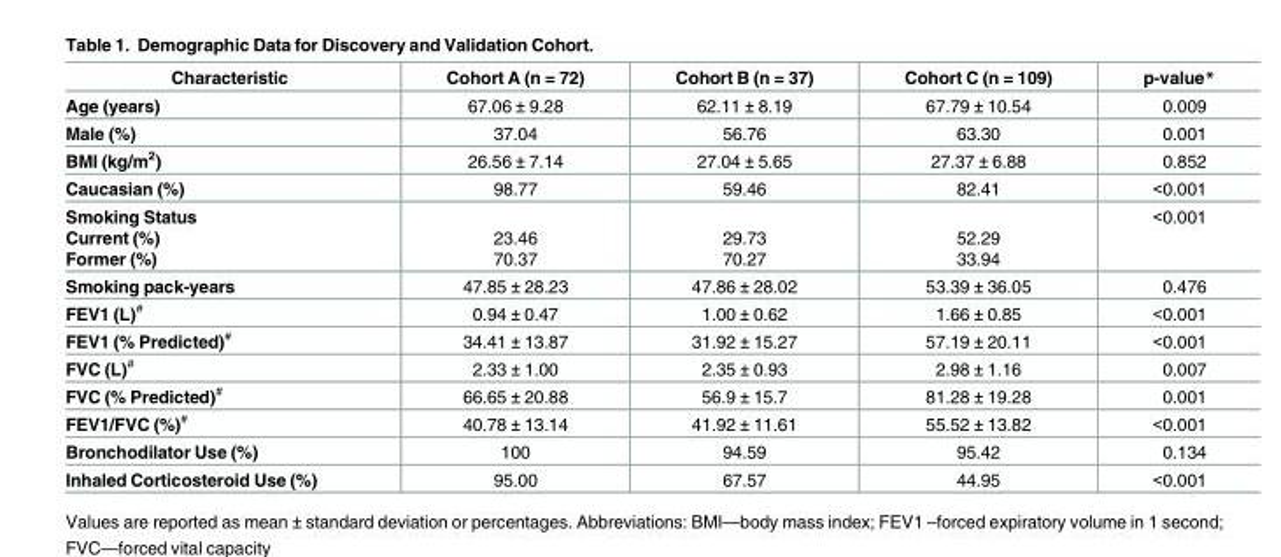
<table><thead><tr><td>Characteristic</td><td>Cohort A (n = 72)</td><td>Cohort B (n = 37)</td><td>Cohort C (n = 109)</td><td>p-value*</td></tr></thead><tbody><tr><td>Age (years)</td><td>67.06 ± 9.28</td><td>62.11 ± 8.19</td><td>67.79 ± 10.54</td><td>0.009</td></tr><tr><td>Male (%)</td><td>37.04</td><td>56.76</td><td>63.30</td><td>0.001</td></tr><tr><td>BMI (kg/m<sup>2</sup>)</td><td>26.56 ± 7.14</td><td>27.04 ± 5.65</td><td>27.37 ± 6.88</td><td>0.852</td></tr><tr><td>Caucasian (%)</td><td>98.77</td><td>59.46</td><td>82.41</td><td>&lt;0.001</td></tr><tr><td>Smoking Status Current (%) Former (%)</td><td>23.46 70.37</td><td>29.73 70.27</td><td>52.29 33.94</td><td>&lt;0.001</td></tr><tr><td>Smoking pack-years</td><td>47.85 ± 28.23</td><td>47.86 ± 28.02</td><td>53.39 ± 36.05</td><td>0.476</td></tr><tr><td>FEV1 (L)<sup>#</sup></td><td>0.94 ± 0.47</td><td>1.00 ± 0.62</td><td>1.66 ± 0.85</td><td>&lt;0.001</td></tr><tr><td>FEV1 (% Predicted)<sup>#</sup></td><td>34.41 ± 13.87</td><td>31.92 ± 15.27</td><td>57.19 ± 20.11</td><td>&lt;0.001</td></tr><tr><td>FVC (L)<sup>#</sup></td><td>2.33 ± 1.00</td><td>2.35 ± 0.93</td><td>2.98 ± 1.16</td><td>0.007</td></tr><tr><td>FVC (% Predicted)<sup>#</sup></td><td>66.65 ± 20.88</td><td>56.9 ± 15.7</td><td>81.28 ± 19.28</td><td>0.001</td></tr><tr><td>FEV1/FVC (%)<sup>#</sup></td><td>40.78 ± 13.14</td><td>41.92 ± 11.61</td><td>55.52 ± 13.82</td><td>&lt;0.001</td></tr><tr><td>Bronchodilator Use (%)</td><td>100</td><td>94.59</td><td>95.42</td><td>0.134</td></tr><tr><td>Inhaled Corticosteroid Use (%)</td><td>95.00</td><td>67.57</td><td>44.95</td><td>&lt;0.001</td></tr></tbody></table>